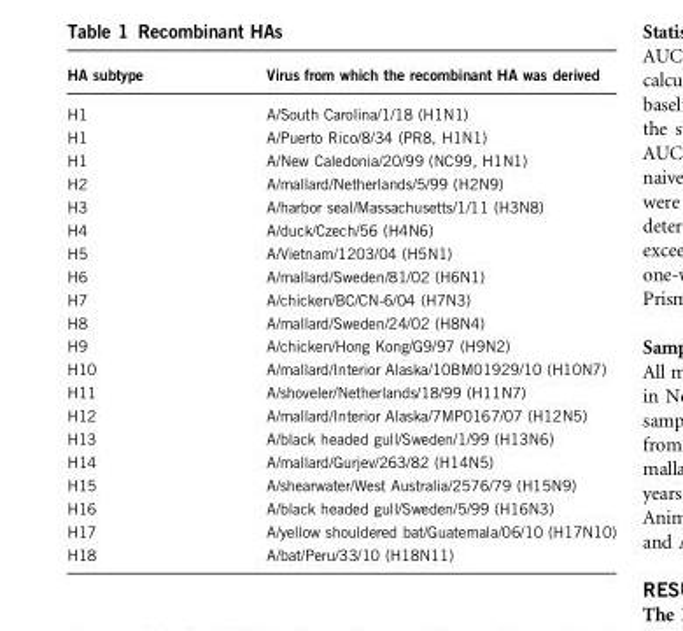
<table><thead><tr><td>HA subtype</td><td>Virus from which the recombinant HA was derived</td></tr></thead><tbody><tr><td>H1</td><td>A/South Carolina/1/18 (H1N1)</td></tr><tr><td>H1</td><td>A/Puerto Rico/8/34 (PR8, H1N1)</td></tr><tr><td>H1</td><td>A/New Caledonia/20/99 (NC99, H1N1)</td></tr><tr><td>H2</td><td>A/mallard/Netherlands/5/99 (H2N9)</td></tr><tr><td>H3</td><td>A/harbor seal/Massachusetts/1/11 (H3N8)</td></tr><tr><td>H4</td><td>A/duck/Czech/56 (H4N6)</td></tr><tr><td>H5</td><td>A/Vietnam/1203/04 (H5N1)</td></tr><tr><td>H6</td><td>A/mallard/Sweden/81/02 (H6N1)</td></tr><tr><td>H7</td><td>A/chicken/BC/CN-6/04 (H7N3)</td></tr><tr><td>H8</td><td>A/mallard/Sweden/24/02 (H8N4)</td></tr><tr><td>H9</td><td>A/chicken/Hong Kong/G9/97 (H9N2)</td></tr><tr><td>H10</td><td>A/mallard/Interior Alaska/10BM01929/10 (H10N7)</td></tr><tr><td>H11</td><td>A/shoveler/Netherlands/18/99 (H11N7)</td></tr><tr><td>H12</td><td>A/mallard/Interior Alaska/7MP0167/07 (H12N5)</td></tr><tr><td>H13</td><td>A/black headed gull/Sweden/1/99 (H13N6)</td></tr><tr><td>H14</td><td>A/mallard/Gurjev/263/82 (H14N5)</td></tr><tr><td>H15</td><td>A/shearwater/West Australia/2576/79 (H15N9)</td></tr><tr><td>H16</td><td>A/black headed gull/Sweden/5/99 (H16N3)</td></tr><tr><td>H17</td><td>A/yellow shouldered bat/Guatemala/06/10 (H17N10)</td></tr><tr><td>H18</td><td>A/bat/Peru/33/10 (H18N11)</td></tr></tbody></table>